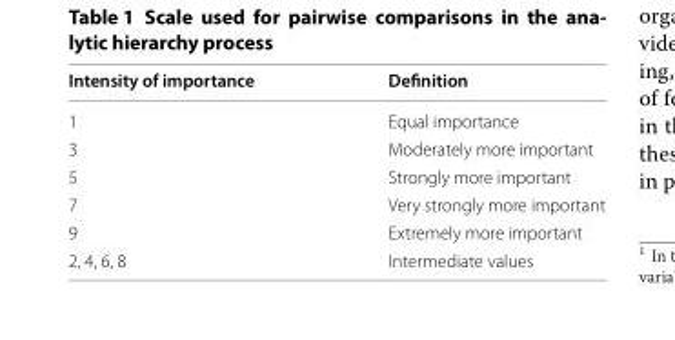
<table><thead><tr><td>Intensity of importance</td><td>Definition</td></tr></thead><tbody><tr><td>1</td><td>Equal importance</td></tr><tr><td>3</td><td>Moderately more important</td></tr><tr><td>5</td><td>Strongly more important</td></tr><tr><td>7</td><td>Very strongly more important</td></tr><tr><td>9</td><td>Extremely more important</td></tr><tr><td>2, 4, 6, 8</td><td>Intermediate values</td></tr></tbody></table>